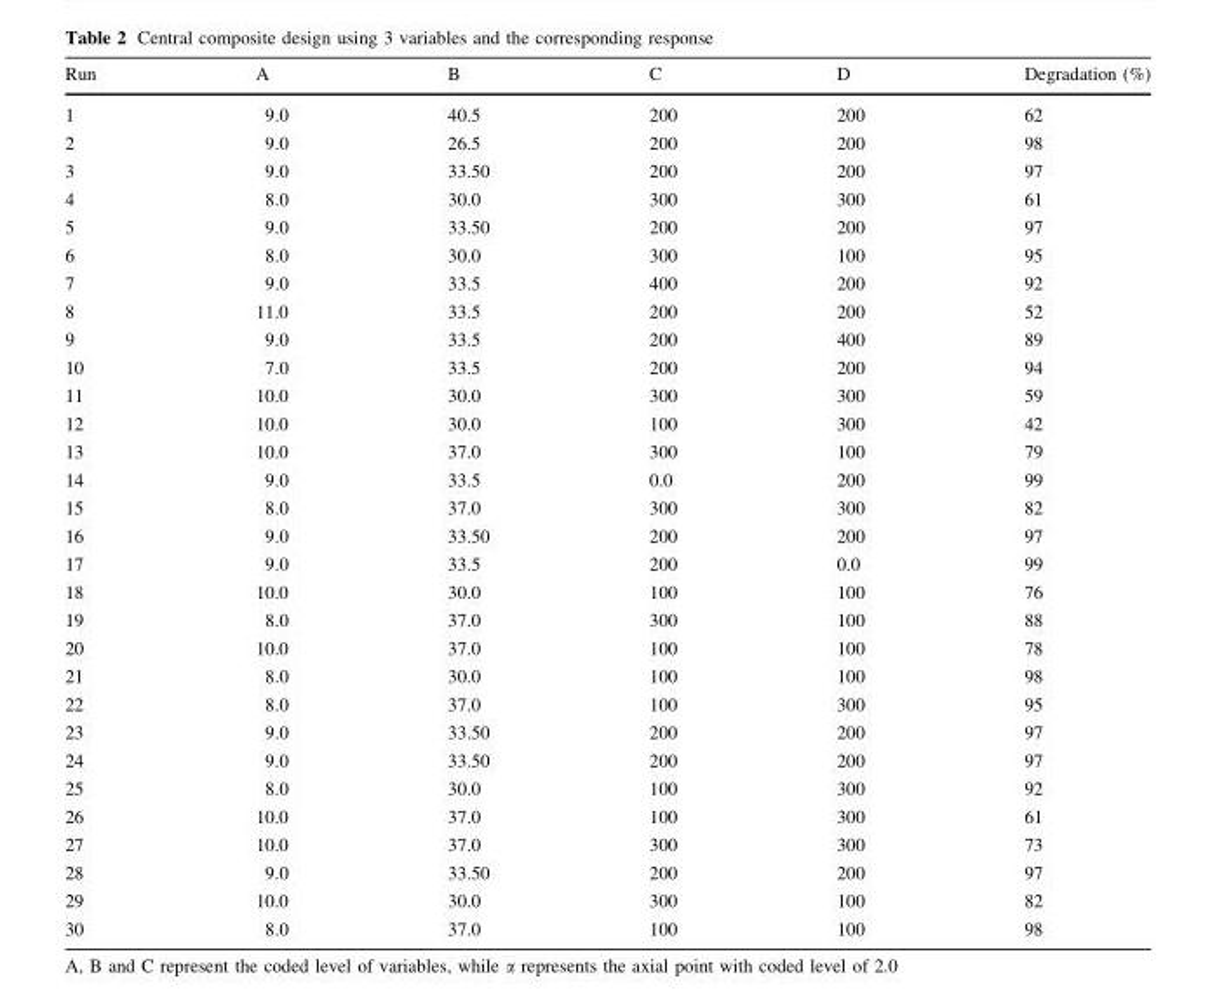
<table><thead><tr><td>Run</td><td>A</td><td>B</td><td>C</td><td>D</td><td>Degradation (%)</td></tr></thead><tbody><tr><td>1</td><td>9.0</td><td>40.5</td><td>200</td><td>200</td><td>62</td></tr><tr><td>2</td><td>9.0</td><td>26.5</td><td>200</td><td>200</td><td>98</td></tr><tr><td>3</td><td>9.0</td><td>33.50</td><td>200</td><td>200</td><td>97</td></tr><tr><td>4</td><td>8.0</td><td>30.0</td><td>300</td><td>300</td><td>61</td></tr><tr><td>5</td><td>9.0</td><td>33.50</td><td>200</td><td>200</td><td>97</td></tr><tr><td>6</td><td>8.0</td><td>30.0</td><td>300</td><td>100</td><td>95</td></tr><tr><td>7</td><td>9.0</td><td>33.5</td><td>400</td><td>200</td><td>92</td></tr><tr><td>8</td><td>11.0</td><td>33.5</td><td>200</td><td>200</td><td>52</td></tr><tr><td>9</td><td>9.0</td><td>33.5</td><td>200</td><td>400</td><td>89</td></tr><tr><td>10</td><td>7.0</td><td>33.5</td><td>200</td><td>200</td><td>94</td></tr><tr><td>11</td><td>10.0</td><td>30.0</td><td>300</td><td>300</td><td>59</td></tr><tr><td>12</td><td>10.0</td><td>30.0</td><td>100</td><td>300</td><td>42</td></tr><tr><td>13</td><td>10.0</td><td>37.0</td><td>300</td><td>100</td><td>79</td></tr><tr><td>14</td><td>9.0</td><td>33.5</td><td>0.0</td><td>200</td><td>99</td></tr><tr><td>15</td><td>8.0</td><td>37.0</td><td>300</td><td>300</td><td>82</td></tr><tr><td>16</td><td>9.0</td><td>33.50</td><td>200</td><td>200</td><td>97</td></tr><tr><td>17</td><td>9.0</td><td>33.5</td><td>200</td><td>0.0</td><td>99</td></tr><tr><td>18</td><td>10.0</td><td>30.0</td><td>100</td><td>100</td><td>76</td></tr><tr><td>19</td><td>8.0</td><td>37.0</td><td>300</td><td>100</td><td>88</td></tr><tr><td>20</td><td>10.0</td><td>37.0</td><td>100</td><td>100</td><td>78</td></tr><tr><td>21</td><td>8.0</td><td>30.0</td><td>100</td><td>100</td><td>98</td></tr><tr><td>22</td><td>8.0</td><td>37.0</td><td>100</td><td>300</td><td>95</td></tr><tr><td>23</td><td>9.0</td><td>33.50</td><td>200</td><td>200</td><td>97</td></tr><tr><td>24</td><td>9.0</td><td>33.50</td><td>200</td><td>200</td><td>97</td></tr><tr><td>25</td><td>8.0</td><td>30.0</td><td>100</td><td>300</td><td>92</td></tr><tr><td>26</td><td>10.0</td><td>37.0</td><td>100</td><td>300</td><td>61</td></tr><tr><td>27</td><td>10.0</td><td>37.0</td><td>300</td><td>300</td><td>73</td></tr><tr><td>28</td><td>9.0</td><td>33.50</td><td>200</td><td>200</td><td>97</td></tr><tr><td>29</td><td>10.0</td><td>30.0</td><td>300</td><td>100</td><td>82</td></tr><tr><td>30</td><td>8.0</td><td>37.0</td><td>100</td><td>100</td><td>98</td></tr></tbody></table>